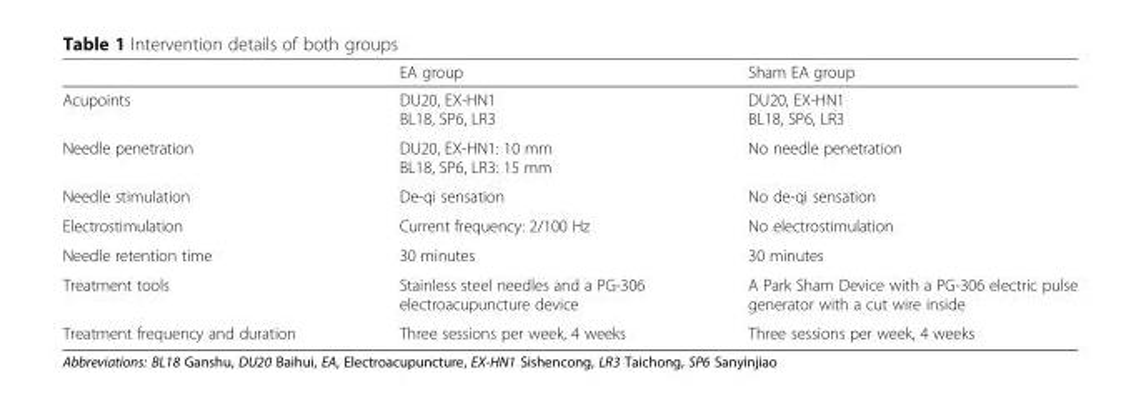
<table><thead><tr><td></td><td>EA group</td><td>Sham EA group</td></tr></thead><tbody><tr><td>Acupoints</td><td>DU20, EX-HN1 BL18, SP6, LR3</td><td>DU20, EX-HN1 BL18, SP6, LR3</td></tr><tr><td>Needle penetration</td><td>DU20, EX-HN1: 10 mm BL18, SP6, LR3: 15 mm</td><td>No needle penetration</td></tr><tr><td>Needle stimulation</td><td>De-qi sensation</td><td>No de-qi sensation</td></tr><tr><td>Electrostimulation</td><td>Current frequency: 2/100 Hz</td><td>No electrostimulation</td></tr><tr><td>Needle retention time</td><td>30 minutes</td><td>30 minutes</td></tr><tr><td>Treatment tools</td><td>Stainless steel needles and a PG-306 electroacupuncture device</td><td>A Park Sham Device with a PG-306 electric pulse generator with a cut wire inside</td></tr><tr><td>Treatment frequency and duration</td><td>Three sessions per week, 4 weeks</td><td>Three sessions per week, 4 weeks</td></tr></tbody></table>